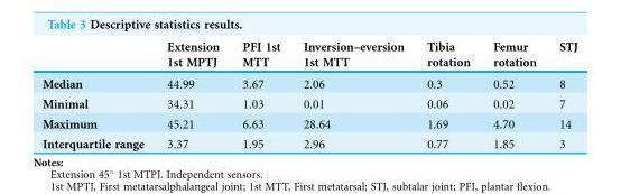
<table><thead><tr><td></td><td>Extension 1st MPTJ</td><td>PFI 1st MTT</td><td>Inversion–eversion 1st MTT</td><td>Tibia rotation</td><td>Femur rotation</td><td>STJ</td></tr></thead><tbody><tr><td>Median</td><td>44.99</td><td>3.67</td><td>2.06</td><td>0.3</td><td>0.52</td><td>8</td></tr><tr><td>Minimal</td><td>34.31</td><td>1.03</td><td>0.01</td><td>0.06</td><td>0.02</td><td>7</td></tr><tr><td>Maximum</td><td>45.21</td><td>6.63</td><td>28.64</td><td>1.69</td><td>4.70</td><td>14</td></tr><tr><td>Interquartile range</td><td>3.37</td><td>1.95</td><td>2.96</td><td>0.77</td><td>1.85</td><td>3</td></tr></tbody></table>